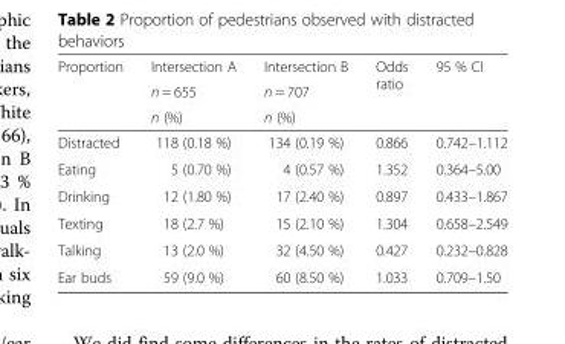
<table><thead><tr><td rowspan="3">Proportion</td><td rowspan="3">Intersection A n = 655 n (%)</td><td rowspan="3">Intersection B n = 707 n (%)</td><td rowspan="3">Odds ratio</td><td rowspan="3">95 % CI</td></tr><tr></tr><tr></tr></thead><tbody><tr><td>Distracted</td><td>118 (0.18 %)</td><td>134 (0.19 %)</td><td>0.866</td><td>0.742–1.112</td></tr><tr><td>Eating</td><td>5 (0.70 %)</td><td>4 (0.57 %)</td><td>1.352</td><td>0.364–5.00</td></tr><tr><td>Drinking</td><td>12 (1.80 %)</td><td>17 (2.40 %)</td><td>0.897</td><td>0.433–1.867</td></tr><tr><td>Texting</td><td>18 (2.7 %)</td><td>15 (2.10 %)</td><td>1.304</td><td>0.658–2.549</td></tr><tr><td>Talking</td><td>13 (2.0 %)</td><td>32 (4.50 %)</td><td>0.427</td><td>0.232–0.828</td></tr><tr><td>Ear buds</td><td>59 (9.0 %)</td><td>60 (8.50 %)</td><td>1.033</td><td>0.709–1.50</td></tr></tbody></table>